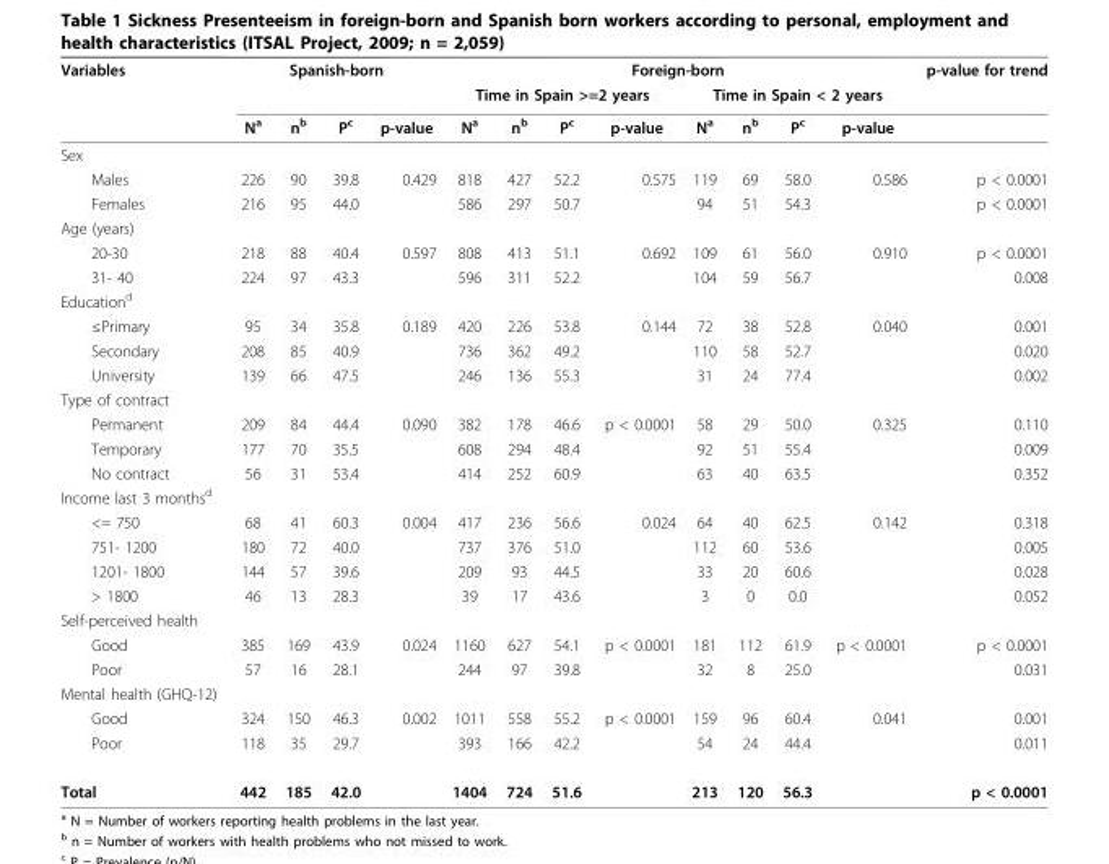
<table><thead><tr><td rowspan="3">Variables</td><td colspan="4">Spanish-born</td><td colspan="8">Foreign-born</td><td rowspan="3">p-value for trend</td></tr><tr><td rowspan="2">N<sup>a</sup></td><td rowspan="2">n<sup>b</sup></td><td rowspan="2">P<sup>c</sup></td><td rowspan="2">p-value</td><td colspan="4">Time in Spain &gt;=2 years</td><td colspan="4">Time in Spain &lt; 2 years</td></tr><tr><td>N<sup>a</sup></td><td>n<sup>b</sup></td><td>P<sup>c</sup></td><td>p-value</td><td>N<sup>a</sup></td><td>n<sup>b</sup></td><td>P<sup>c</sup></td><td>p-value</td></tr></thead><tbody><tr><td colspan="14">Sex</td></tr><tr><td>Males</td><td>226</td><td>90</td><td>39.8</td><td>0.429</td><td>818</td><td>427</td><td>52.2</td><td>0.575</td><td>119</td><td>69</td><td>58.0</td><td>0.586</td><td>p &lt; 0.0001</td></tr><tr><td>Females</td><td>216</td><td>95</td><td>44.0</td><td></td><td>586</td><td>297</td><td>50.7</td><td></td><td>94</td><td>51</td><td>54.3</td><td></td><td>p &lt; 0.0001</td></tr><tr><td colspan="14">Age (years)</td></tr><tr><td>20-30</td><td>218</td><td>88</td><td>40.4</td><td>0.597</td><td>808</td><td>413</td><td>51.1</td><td>0.692</td><td>109</td><td>61</td><td>56.0</td><td>0.910</td><td>p &lt; 0.0001</td></tr><tr><td>31- 40</td><td>224</td><td>97</td><td>43.3</td><td></td><td>596</td><td>311</td><td>52.2</td><td></td><td>104</td><td>59</td><td>56.7</td><td></td><td>0.008</td></tr><tr><td colspan="14">Education<sup>d</sup></td></tr><tr><td>≤Primary</td><td>95</td><td>34</td><td>35.8</td><td>0.189</td><td>420</td><td>226</td><td>53.8</td><td>0.144</td><td>72</td><td>38</td><td>52.8</td><td>0.040</td><td>0.001</td></tr><tr><td>Secondary</td><td>208</td><td>85</td><td>40.9</td><td></td><td>736</td><td>362</td><td>49.2</td><td></td><td>110</td><td>58</td><td>52.7</td><td></td><td>0.020</td></tr><tr><td>University</td><td>139</td><td>66</td><td>47.5</td><td></td><td>246</td><td>136</td><td>55.3</td><td></td><td>31</td><td>24</td><td>77.4</td><td></td><td>0.002</td></tr><tr><td colspan="14">Type of contract</td></tr><tr><td>Permanent</td><td>209</td><td>84</td><td>44.4</td><td>0.090</td><td>382</td><td>178</td><td>46.6</td><td>p &lt; 0.0001</td><td>58</td><td>29</td><td>50.0</td><td>0.325</td><td>0.110</td></tr><tr><td>Temporary</td><td>177</td><td>70</td><td>35.5</td><td></td><td>608</td><td>294</td><td>48.4</td><td></td><td>92</td><td>51</td><td>55.4</td><td></td><td>0.009</td></tr><tr><td>No contract</td><td>56</td><td>31</td><td>53.4</td><td></td><td>414</td><td>252</td><td>60.9</td><td></td><td>63</td><td>40</td><td>63.5</td><td></td><td>0.352</td></tr><tr><td colspan="14">Income last 3 months<sup>d</sup></td></tr><tr><td>&lt;= 750</td><td>68</td><td>41</td><td>60.3</td><td>0.004</td><td>417</td><td>236</td><td>56.6</td><td>0.024</td><td>64</td><td>40</td><td>62.5</td><td>0.142</td><td>0.318</td></tr><tr><td>751- 1200</td><td>180</td><td>72</td><td>40.0</td><td></td><td>737</td><td>376</td><td>51.0</td><td></td><td>112</td><td>60</td><td>53.6</td><td></td><td>0.005</td></tr><tr><td>1201- 1800</td><td>144</td><td>57</td><td>39.6</td><td></td><td>209</td><td>93</td><td>44.5</td><td></td><td>33</td><td>20</td><td>60.6</td><td></td><td>0.028</td></tr><tr><td>&gt; 1800</td><td>46</td><td>13</td><td>28.3</td><td></td><td>39</td><td>17</td><td>43.6</td><td></td><td>3</td><td>0</td><td>0.0</td><td></td><td>0.052</td></tr><tr><td colspan="14">Self-perceived health</td></tr><tr><td>Good</td><td>385</td><td>169</td><td>43.9</td><td>0.024</td><td>1160</td><td>627</td><td>54.1</td><td>p &lt; 0.0001</td><td>181</td><td>112</td><td>61.9</td><td>p &lt; 0.0001</td><td>p &lt; 0.0001</td></tr><tr><td>Poor</td><td>57</td><td>16</td><td>28.1</td><td></td><td>244</td><td>97</td><td>39.8</td><td></td><td>32</td><td>8</td><td>25.0</td><td></td><td>0.031</td></tr><tr><td colspan="14">Mental health (GHQ-12)</td></tr><tr><td>Good</td><td>324</td><td>150</td><td>46.3</td><td>0.002</td><td>1011</td><td>558</td><td>55.2</td><td>p &lt; 0.0001</td><td>159</td><td>96</td><td>60.4</td><td>0.041</td><td>0.001</td></tr><tr><td>Poor</td><td>118</td><td>35</td><td>29.7</td><td></td><td>393</td><td>166</td><td>42.2</td><td></td><td>54</td><td>24</td><td>44.4</td><td></td><td>0.011</td></tr><tr><td>Total</td><td>442</td><td>185</td><td>42.0</td><td></td><td>1404</td><td>724</td><td>51.6</td><td></td><td>213</td><td>120</td><td>56.3</td><td></td><td>p &lt; 0.0001</td></tr></tbody></table>